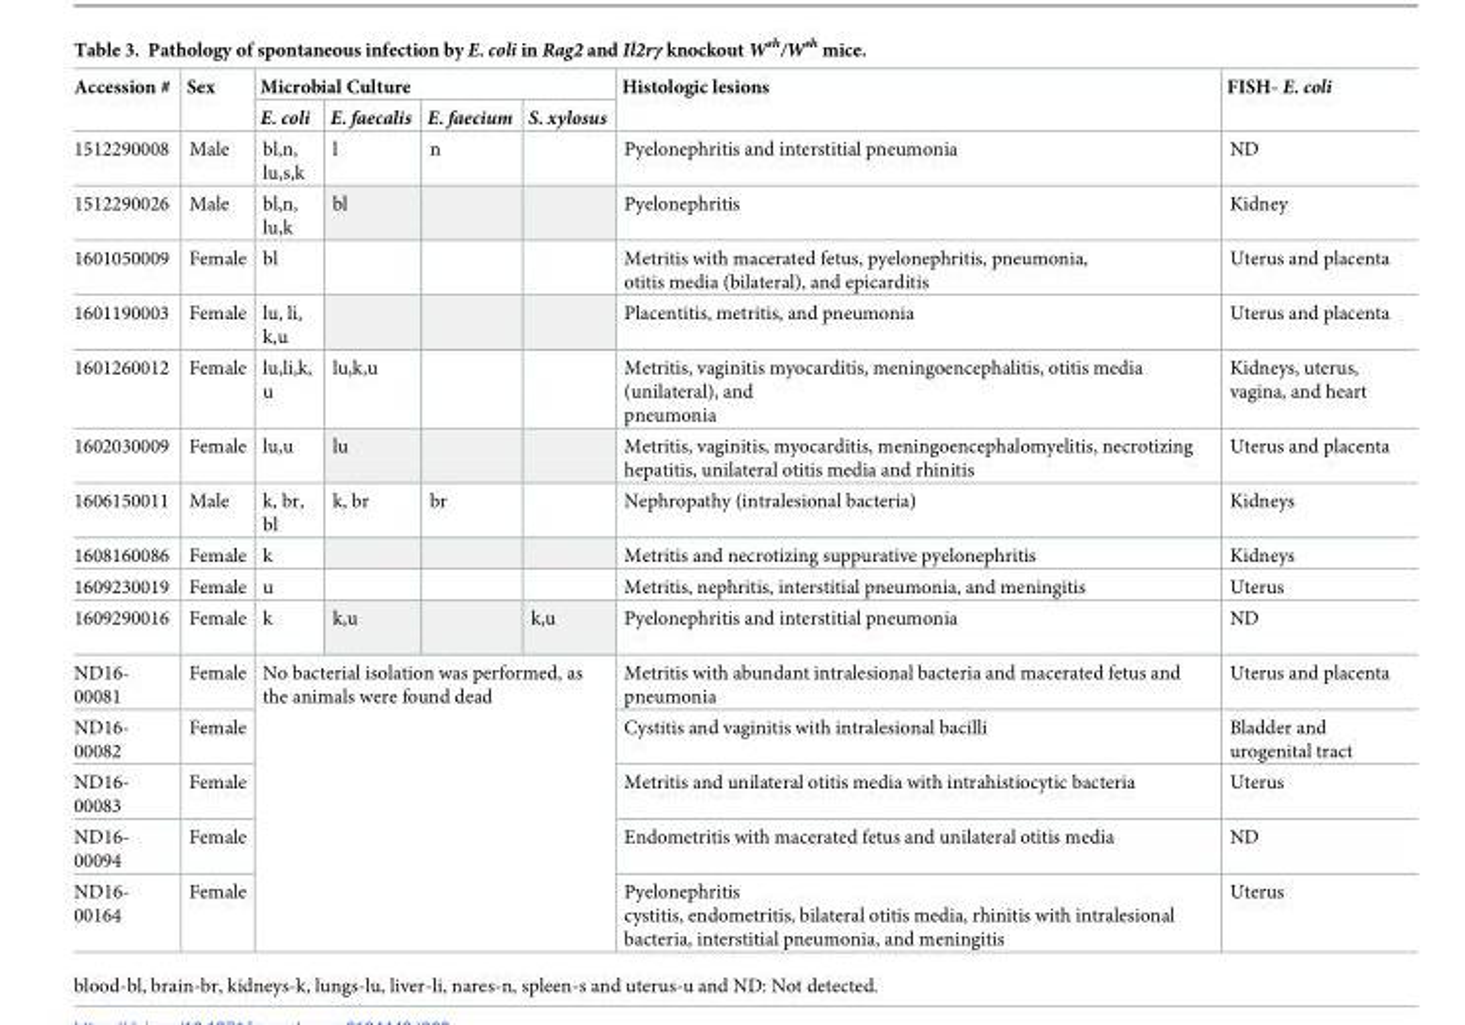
<table><thead><tr><td rowspan="2">Accession #</td><td rowspan="2">Sex</td><td colspan="4">Microbial Culture</td><td rowspan="2">Histologic lesions</td><td rowspan="2">FISH- E. coli</td></tr><tr><td>E. coli</td><td>E. faecalis</td><td>E. faecium</td><td>S. xylosus</td></tr></thead><tbody><tr><td>1512290008</td><td>Male</td><td>bl,n, lu,s,k</td><td>l</td><td>n</td><td></td><td>Pyelonephritis and interstitial pneumonia</td><td>ND</td></tr><tr><td>1512290026</td><td>Male</td><td>bl,n, lu,k</td><td>bl</td><td></td><td></td><td>Pyelonephritis</td><td>Kidney</td></tr><tr><td>1601050009</td><td>Female</td><td>bl</td><td></td><td></td><td></td><td>Metritis with macerated fetus, pyelonephritis, pneumonia, otitis media (bilateral), and epicarditis</td><td>Uterus and placenta</td></tr><tr><td>1601190003</td><td>Female</td><td>lu, li, k,u</td><td></td><td></td><td></td><td>Placentitis, metritis, and pneumonia</td><td>Uterus and placenta</td></tr><tr><td>1601260012</td><td>Female</td><td>lu,li,k, u</td><td>lu,k,u</td><td></td><td></td><td>Metritis, vaginitis myocarditis, meningoencephalitis, otitis media (unilateral), and pneumonia</td><td>Kidneys, uterus, vagina, and heart</td></tr><tr><td>1602030009</td><td>Female</td><td>lu,u</td><td>lu</td><td></td><td></td><td>Metritis, vaginitis, myocarditis, meningoencephalomyelitis, necrotizing hepatitis, unilateral otitis media and rhinitis</td><td>Uterus and placenta</td></tr><tr><td>1606150011</td><td>Male</td><td>k, br, bl</td><td>k, br</td><td>br</td><td></td><td>Nephropathy (intralesional bacteria)</td><td>Kidneys</td></tr><tr><td>1608160086</td><td>Female</td><td>k</td><td></td><td></td><td></td><td>Metritis and necrotizing suppurative pyelonephritis</td><td>Kidneys</td></tr><tr><td>1609230019</td><td>Female</td><td>u</td><td></td><td></td><td></td><td>Metritis, nephritis, interstitial pneumonia, and meningitis</td><td>Uterus</td></tr><tr><td>1609290016</td><td>Female</td><td>k</td><td>k,u</td><td></td><td>k,u</td><td>Pyelonephritis and interstitial pneumonia</td><td>ND</td></tr><tr><td>ND16- 00081</td><td>Female</td><td rowspan="5" colspan="4">No bacterial isolation was performed, as the animals were found dead</td><td>Metritis with abundant intralesional bacteria and macerated fetus and pneumonia</td><td>Uterus and placenta</td></tr><tr><td>ND16- 00082</td><td>Female</td><td>Cystitis and vaginitis with intralesional bacilli</td><td>Bladder and urogenital tract</td></tr><tr><td>ND16- 00083</td><td>Female</td><td>Metritis and unilateral otitis media with intrahistiocytic bacteria</td><td>Uterus</td></tr><tr><td>ND16- 00094</td><td>Female</td><td>Endometritis with macerated fetus and unilateral otitis media</td><td>ND</td></tr><tr><td>ND16- 00164</td><td>Female</td><td>Pyelonephritis cystitis, endometritis, bilateral otitis media, rhinitis with intralesional bacteria, interstitial pneumonia, and meningitis</td><td>Uterus</td></tr></tbody></table>